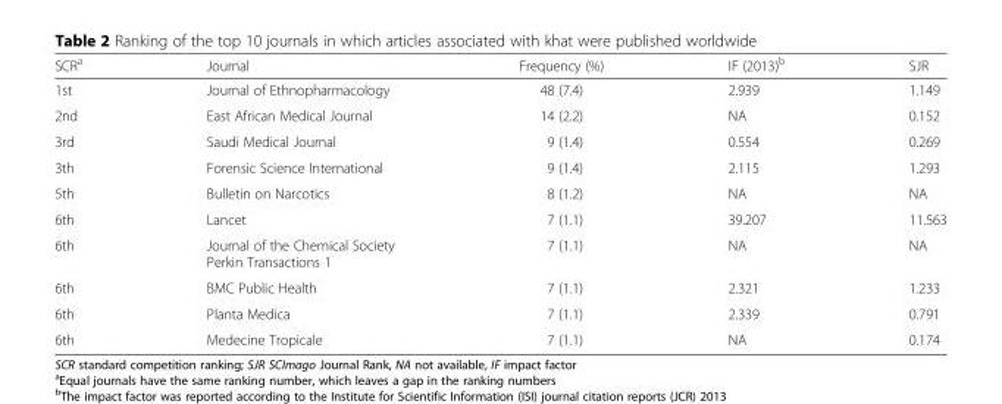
<table><thead><tr><td>SCR<sup>a</sup></td><td>Journal</td><td>Frequency (%)</td><td>IF (2013)<sup>b</sup></td><td>SJR</td></tr></thead><tbody><tr><td>1st</td><td>Journal of Ethnopharmacology</td><td>48 (7.4)</td><td>2.939</td><td>1.149</td></tr><tr><td>2nd</td><td>East African Medical Journal</td><td>14 (2.2)</td><td>NA</td><td>0.152</td></tr><tr><td>3rd</td><td>Saudi Medical Journal</td><td>9 (1.4)</td><td>0.554</td><td>0.269</td></tr><tr><td>3th</td><td>Forensic Science International</td><td>9 (1.4)</td><td>2.115</td><td>1.293</td></tr><tr><td>5th</td><td>Bulletin on Narcotics</td><td>8 (1.2)</td><td>NA</td><td>NA</td></tr><tr><td>6th</td><td>Lancet</td><td>7 (1.1)</td><td>39.207</td><td>11.563</td></tr><tr><td>6th</td><td>Journal of the Chemical Society Perkin Transactions 1</td><td>7 (1.1)</td><td>NA</td><td>NA</td></tr><tr><td>6th</td><td>BMC Public Health</td><td>7 (1.1)</td><td>2.321</td><td>1.233</td></tr><tr><td>6th</td><td>Planta Medica</td><td>7 (1.1)</td><td>2.339</td><td>0.791</td></tr><tr><td>6th</td><td>Medecine Tropicale</td><td>7 (1.1)</td><td>NA</td><td>0.174</td></tr></tbody></table>